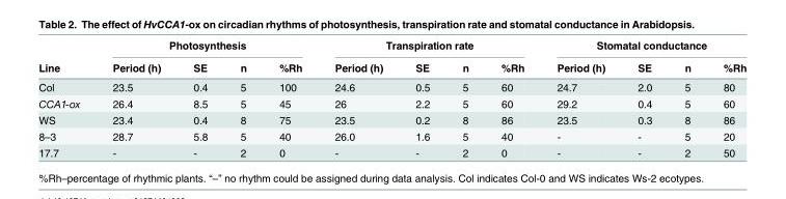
<table><thead><tr><td rowspan="2">Line</td><td colspan="4">Photosynthesis</td><td colspan="4">Transpiration rate</td><td colspan="4">Stomatal conductance</td></tr><tr><td>Period (h)</td><td>SE</td><td>n</td><td>%Rh</td><td>Period (h)</td><td>SE</td><td>n</td><td>%Rh</td><td>Period (h)</td><td>SE</td><td>n</td><td>%Rh</td></tr></thead><tbody><tr><td>Col</td><td>23.5</td><td>0.4</td><td>5</td><td>100</td><td>24.6</td><td>0.5</td><td>5</td><td>60</td><td>24.7</td><td>2.0</td><td>5</td><td>80</td></tr><tr><td>CCA1-ox</td><td>26.4</td><td>8.5</td><td>5</td><td>45</td><td>26</td><td>2.2</td><td>5</td><td>60</td><td>29.2</td><td>0.4</td><td>5</td><td>60</td></tr><tr><td>WS</td><td>23.4</td><td>0.4</td><td>8</td><td>75</td><td>23.5</td><td>0.2</td><td>8</td><td>86</td><td>23.5</td><td>0.3</td><td>8</td><td>86</td></tr><tr><td>8–3</td><td>28.7</td><td>5.8</td><td>5</td><td>40</td><td>26.0</td><td>1.6</td><td>5</td><td>40</td><td>-</td><td>-</td><td>5</td><td>20</td></tr><tr><td>17.7</td><td>-</td><td>-</td><td>2</td><td>0</td><td>-</td><td>-</td><td>2</td><td>0</td><td>-</td><td>-</td><td>2</td><td>50</td></tr></tbody></table>